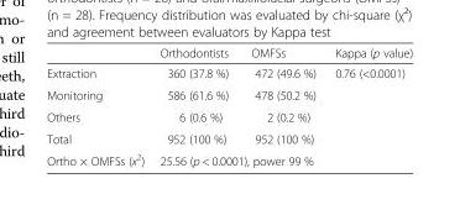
<table><thead><tr><td></td><td>Orthodontists</td><td>OMFSs</td><td>Kappa (p value)</td></tr></thead><tbody><tr><td>Extraction</td><td>360 (37.8 %)</td><td>472 (49.6 %)</td><td rowspan="2">0.76 (&lt;0.0001)</td></tr><tr><td>Monitoring</td><td>586 (61.6 %)</td><td>478 (50.2 %)</td></tr><tr><td>Others</td><td>6 (0.6 %)</td><td>2 (0.2 %)</td><td></td></tr><tr><td>Total</td><td>952 (100 %)</td><td>952 (100 %)</td><td></td></tr><tr><td>Ortho × OMFSs (x<sup>2</sup>)</td><td colspan="2">25.56 (p &lt; 0.0001), power 99 %</td><td></td></tr></tbody></table>